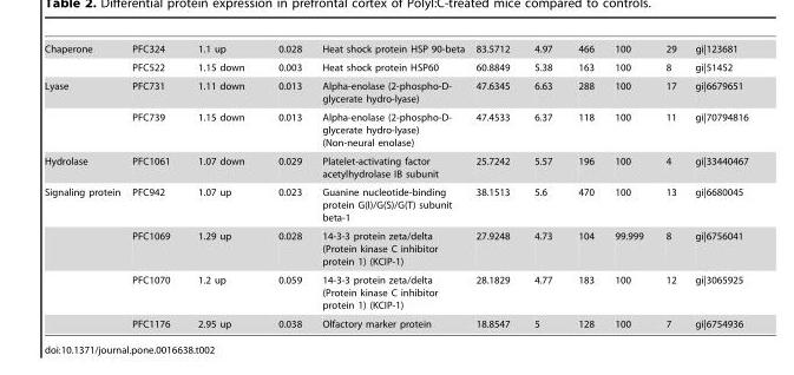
<table><tbody><tr><td rowspan="2">Chaperone</td><td>PFC324</td><td>1.1 up</td><td>0.028</td><td>Heat shock protein HSP 90-beta</td><td>83.5712</td><td>4.97</td><td>466</td><td>100</td><td>29</td><td>gi|123681</td></tr><tr><td>PFC522</td><td>1.15 down</td><td>0.003</td><td>Heat shock protein HSP60</td><td>60.8849</td><td>5.38</td><td>163</td><td>100</td><td>8</td><td>gi|51452</td></tr><tr><td rowspan="2">Lyase</td><td>PFC731</td><td>1.11 down</td><td>0.013</td><td>Alpha-enolase (2-phospho-D- glycerate hydro-lyase)</td><td>47.6345</td><td>6.63</td><td>288</td><td>100</td><td>17</td><td>gi|6679651</td></tr><tr><td>PFC739</td><td>1.15 down</td><td>0.013</td><td>Alpha-enolase (2-phospho-D- glycerate hydro-lyase) (Non-neural enolase)</td><td>47.4533</td><td>6.37</td><td>118</td><td>100</td><td>11</td><td>gi|70794816</td></tr><tr><td>Hydrolase</td><td>PFC1061</td><td>1.07 down</td><td>0.029</td><td>Platelet-activating factor acetylhydrolase IB subunit</td><td>25.7242</td><td>5.57</td><td>196</td><td>100</td><td>4</td><td>gi|33440467</td></tr><tr><td rowspan="4">Signaling protein</td><td>PFC942</td><td>1.07 up</td><td>0.023</td><td>Guanine nucleotide-binding protein G(I)/G(S)/G(T) subunit beta-1</td><td>38.1513</td><td>5.6</td><td>470</td><td>100</td><td>13</td><td>gi|6680045</td></tr><tr><td>PFC1069</td><td>1.29 up</td><td>0.028</td><td>14-3-3 protein zeta/delta (Protein kinase C inhibitor protein 1) (KCIP-1)</td><td>27.9248</td><td>4.73</td><td>104</td><td>99.999</td><td>8</td><td>gi|6756041</td></tr><tr><td>PFC1070</td><td>1.2 up</td><td>0.059</td><td>14-3-3 protein zeta/delta (Protein kinase C inhibitor protein 1) (KCIP-1)</td><td>28.1829</td><td>4.77</td><td>183</td><td>100</td><td>12</td><td>gi|3065925</td></tr><tr><td>PFC1176</td><td>2.95 up</td><td>0.038</td><td>Olfactory marker protein</td><td>18.8547</td><td>5</td><td>128</td><td>100</td><td>7</td><td>gi|6754936</td></tr></tbody></table>